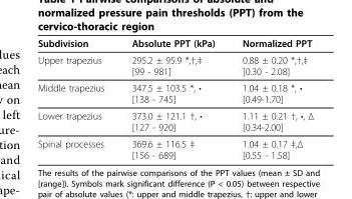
<table><thead><tr><td>Subdivision</td><td>Absolute PPT (kPa)</td><td>Normalized PPT</td></tr></thead><tbody><tr><td>Upper trapezius</td><td>295.2 ± 95.9 *,†,‡ [99 - 981]</td><td>0.88 ± 0.20 *,†,‡ [0.30 - 2.08]</td></tr><tr><td>Middle trapezius</td><td>347.5 ± 103.5 *, • [138 - 745]</td><td>1.04 ± 0.18 *, • [0.49-1.70]</td></tr><tr><td>Lower trapezius</td><td>373.0 ± 121.1 †, • [127 - 920]</td><td>1.11 ± 0.21 †, •, Δ [0.34-2.00]</td></tr><tr><td>Spinal processes</td><td>369.6 ± 116.5 ‡ [156 - 689]</td><td>1.04 ± 0.17 ‡,Δ [0.55 - 1.58]</td></tr></tbody></table>